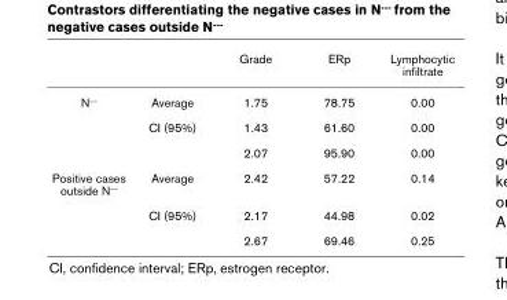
<table><thead><tr><td></td><td></td><td>Grade</td><td>ERp</td><td>Lymphocytic infiltrate</td></tr></thead><tbody><tr><td rowspan="3">N---</td><td>Average</td><td>1.75</td><td>78.75</td><td>0.00</td></tr><tr><td>CI (95%)</td><td>1.43</td><td>61.60</td><td>0.00</td></tr><tr><td></td><td>2.07</td><td>95.90</td><td>0.00</td></tr><tr><td rowspan="3">Positive cases outside N---</td><td>Average</td><td>2.42</td><td>57.22</td><td>0.14</td></tr><tr><td>CI (95%)</td><td>2.17</td><td>44.98</td><td>0.02</td></tr><tr><td></td><td>2.67</td><td>69.46</td><td>0.25</td></tr></tbody></table>